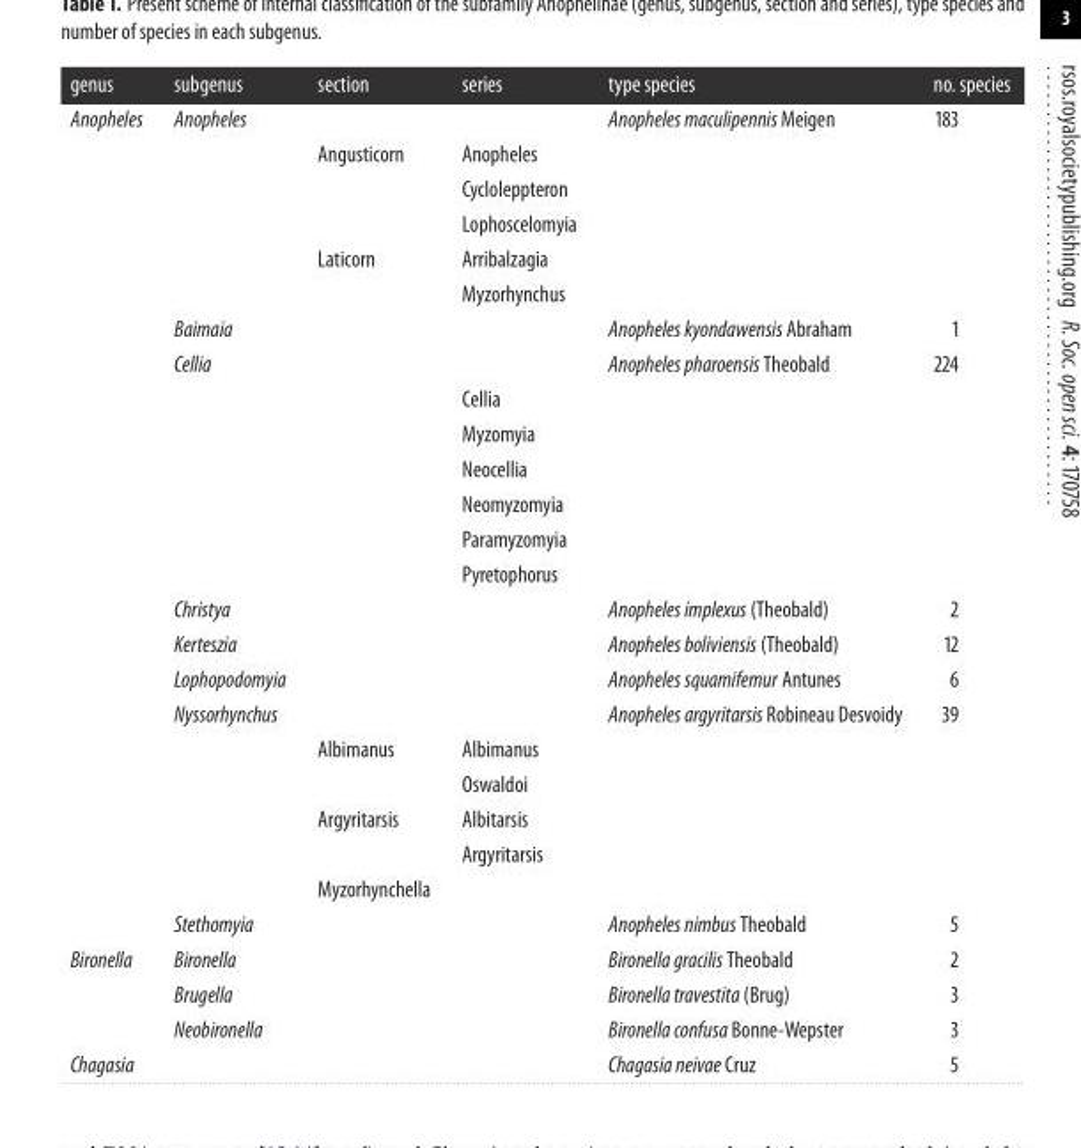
<table><thead><tr><td>genus</td><td>subgenus</td><td>section</td><td>series</td><td>type species</td><td>no. species</td></tr></thead><tbody><tr><td rowspan="24">Anopheles</td><td>Anopheles</td><td></td><td></td><td>Anophelesmaculipennis Meigen</td><td>183</td></tr><tr><td></td><td>Angusticorn</td><td>Anopheles</td><td></td><td></td></tr><tr><td></td><td></td><td>Cycloleppteron</td><td></td><td></td></tr><tr><td></td><td></td><td>Lophoscelomyia</td><td></td><td></td></tr><tr><td></td><td>Laticorn</td><td>Arribalzagia</td><td></td><td></td></tr><tr><td></td><td></td><td>Myzorhynchus</td><td></td><td></td></tr><tr><td>Baimaia</td><td></td><td></td><td>Anopheleskyondawensis Abraham</td><td>1</td></tr><tr><td>Cellia</td><td></td><td></td><td>Anophelespharoensis Theobald</td><td>224</td></tr><tr><td></td><td></td><td>Cellia</td><td></td><td></td></tr><tr><td></td><td></td><td>Myzomyia</td><td></td><td></td></tr><tr><td></td><td></td><td>Neocellia</td><td></td><td></td></tr><tr><td></td><td></td><td>Neomyzomyia</td><td></td><td></td></tr><tr><td></td><td></td><td>Paramyzomyia</td><td></td><td></td></tr><tr><td></td><td></td><td>Pyretophorus</td><td></td><td></td></tr><tr><td>Christya</td><td></td><td></td><td>Anophelesimplexus (Theobald)</td><td>2</td></tr><tr><td>Kerteszia</td><td></td><td></td><td>Anophelesboliviensis (Theobald)</td><td>12</td></tr><tr><td>Lophopodomyia</td><td></td><td></td><td>Anophelessquamifemur Antunes</td><td>6</td></tr><tr><td>Nyssorhynchus</td><td></td><td></td><td>Anophelesargyritarsis Robineau Desvoidy</td><td>39</td></tr><tr><td></td><td>Albimanus</td><td>Albimanus</td><td></td><td></td></tr><tr><td></td><td></td><td>Oswaldoi</td><td></td><td></td></tr><tr><td></td><td>Argyritarsis</td><td>Albitarsis</td><td></td><td></td></tr><tr><td></td><td></td><td>Argyritarsis</td><td></td><td></td></tr><tr><td></td><td>Myzorhynchella</td><td></td><td></td><td></td></tr><tr><td>Stethomyia</td><td></td><td></td><td>Anophelesnimbus Theobald</td><td>5</td></tr><tr><td rowspan="3">Bironella</td><td>Bironella</td><td></td><td></td><td>Bironellagracilis Theobald</td><td>2</td></tr><tr><td>Brugella</td><td></td><td></td><td>Bironellatravestita (Brug)</td><td>3</td></tr><tr><td>Neobironella</td><td></td><td></td><td>Bironellaconfusa Bonne-Wepster</td><td>3</td></tr><tr><td>Chagasia</td><td></td><td></td><td></td><td>Chagasianeivae Cruz</td><td>5</td></tr></tbody></table>